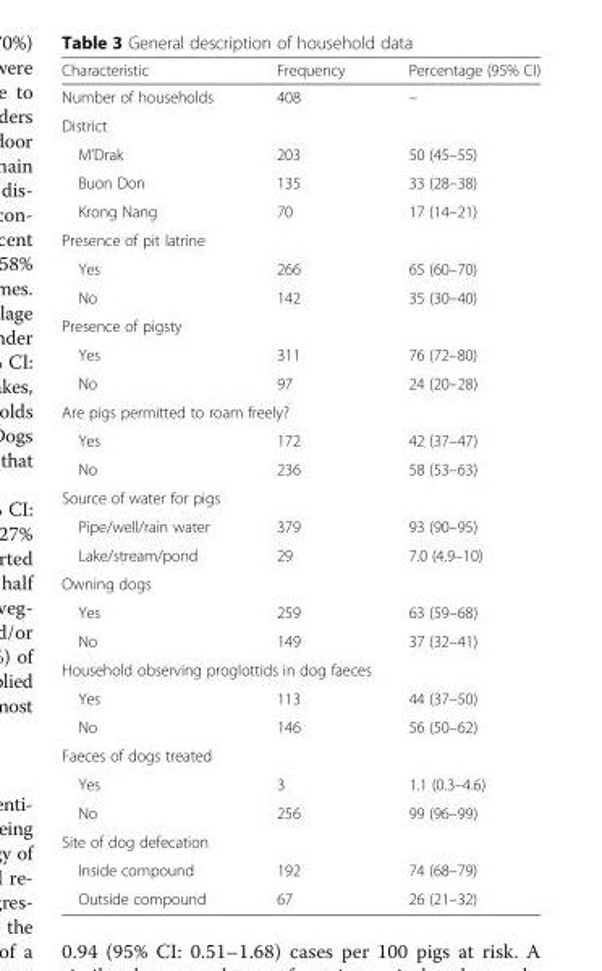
<table><thead><tr><td>Characteristic</td><td>Frequency</td><td>Percentage (95% CI)</td></tr></thead><tbody><tr><td>Number of households</td><td>408</td><td>–</td></tr><tr><td colspan="3">District</td></tr><tr><td>M&#x27;Drak</td><td>203</td><td>50 (45–55)</td></tr><tr><td>Buon Don</td><td>135</td><td>33 (28–38)</td></tr><tr><td>Krong Nang</td><td>70</td><td>17 (14–21)</td></tr><tr><td colspan="3">Presence of pit latrine</td></tr><tr><td>Yes</td><td>266</td><td>65 (60–70)</td></tr><tr><td>No</td><td>142</td><td>35 (30–40)</td></tr><tr><td colspan="3">Presence of pigsty</td></tr><tr><td>Yes</td><td>311</td><td>76 (72–80)</td></tr><tr><td>No</td><td>97</td><td>24 (20–28)</td></tr><tr><td colspan="3">Are pigs permitted to roam freely?</td></tr><tr><td>Yes</td><td>172</td><td>42 (37–47)</td></tr><tr><td>No</td><td>236</td><td>58 (53–63)</td></tr><tr><td colspan="3">Source of water for pigs</td></tr><tr><td>Pipe/well/rain water</td><td>379</td><td>93 (90–95)</td></tr><tr><td>Lake/stream/pond</td><td>29</td><td>7.0 (4.9–10)</td></tr><tr><td colspan="3">Owning dogs</td></tr><tr><td>Yes</td><td>259</td><td>63 (59–68)</td></tr><tr><td>No</td><td>149</td><td>37 (32–41)</td></tr><tr><td colspan="3">Household observing proglottids in dog faeces</td></tr><tr><td>Yes</td><td>113</td><td>44 (37–50)</td></tr><tr><td>No</td><td>146</td><td>56 (50–62)</td></tr><tr><td colspan="3">Faeces of dogs treated</td></tr><tr><td>Yes</td><td>3</td><td>1.1 (0.3–4.6)</td></tr><tr><td>No</td><td>256</td><td>99 (96–99)</td></tr><tr><td colspan="3">Site of dog defecation</td></tr><tr><td>Inside compound</td><td>192</td><td>74 (68–79)</td></tr><tr><td>Outside compound</td><td>67</td><td>26 (21–32)</td></tr></tbody></table>